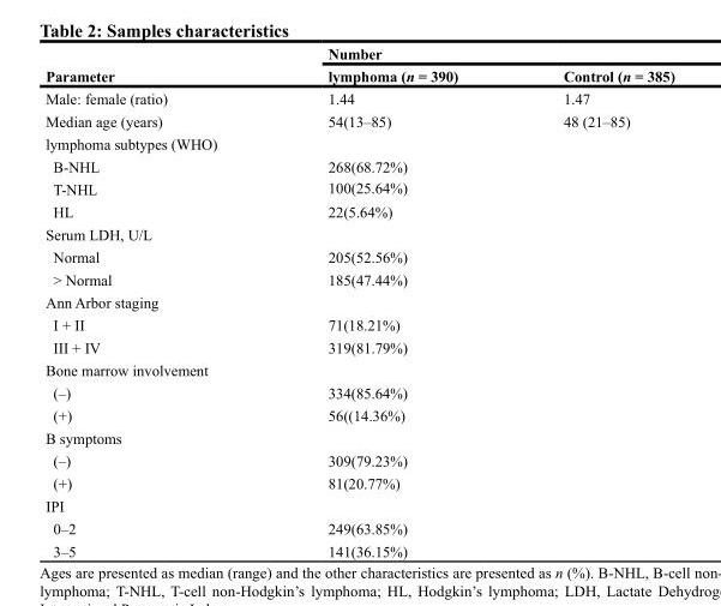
<table><thead><tr><td rowspan="2">Parameter</td><td rowspan="2">Number lymphoma (n = 390)</td><td rowspan="2">Control (n = 385)</td></tr><tr></tr></thead><tbody><tr><td>Male: female (ratio)</td><td>1.44</td><td>1.47</td></tr><tr><td>Median age (years)</td><td>54(13–85)</td><td>48 (21–85)</td></tr><tr><td colspan="3">lymphoma subtypes (WHO)</td></tr><tr><td>B-NHL</td><td>268(68.72%)</td><td></td></tr><tr><td>T-NHL</td><td>100(25.64%)</td><td></td></tr><tr><td>HL</td><td>22(5.64%)</td><td></td></tr><tr><td colspan="3">Serum LDH, U/L</td></tr><tr><td>Normal</td><td>205(52.56%)</td><td></td></tr><tr><td>&gt; Normal</td><td>185(47.44%)</td><td></td></tr><tr><td colspan="3">Ann Arbor staging</td></tr><tr><td>I + II</td><td>71(18.21%)</td><td></td></tr><tr><td>III + IV</td><td>319(81.79%)</td><td></td></tr><tr><td colspan="3">Bone marrow involvement</td></tr><tr><td>(–)</td><td>334(85.64%)</td><td></td></tr><tr><td>(+)</td><td>56((14.36%)</td><td></td></tr><tr><td colspan="3">B symptoms</td></tr><tr><td>(–)</td><td>309(79.23%)</td><td></td></tr><tr><td>(+)</td><td>81(20.77%)</td><td></td></tr><tr><td colspan="3">IPI</td></tr><tr><td>0–2</td><td>249(63.85%)</td><td></td></tr><tr><td>3–5</td><td>141(36.15%)</td><td></td></tr></tbody></table>